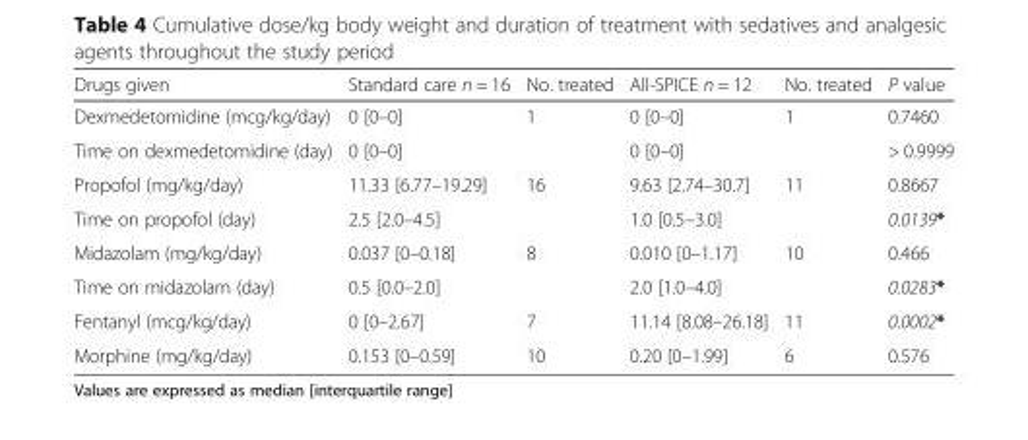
<table><thead><tr><td>Drugs given</td><td>Standard care n = 16</td><td>No. treated</td><td>All-SPICE n = 12</td><td>No. treated</td><td>P value</td></tr></thead><tbody><tr><td>Dexmedetomidine (mcg/kg/day)</td><td>0 [0–0]</td><td>1</td><td>0 [0–0]</td><td>1</td><td>0.7460</td></tr><tr><td>Time on dexmedetomidine (day)</td><td>0 [0–0]</td><td></td><td>0 [0–0]</td><td></td><td>&gt; 0.9999</td></tr><tr><td>Propofol (mg/kg/day)</td><td>11.33 [6.77–19.29]</td><td>16</td><td>9.63 [2.74–30.7]</td><td>11</td><td>0.8667</td></tr><tr><td>Time on propofol (day)</td><td>2.5 [2.0–4.5]</td><td></td><td>1.0 [0.5–3.0]</td><td></td><td>0.0139*</td></tr><tr><td>Midazolam (mg/kg/day)</td><td>0.037 [0–0.18]</td><td>8</td><td>0.010 [0–1.17]</td><td>10</td><td>0.466</td></tr><tr><td>Time on midazolam (day)</td><td>0.5 [0.0–2.0]</td><td></td><td>2.0 [1.0–4.0]</td><td></td><td>0.0283*</td></tr><tr><td>Fentanyl (mcg/kg/day)</td><td>0 [0–2.67]</td><td>7</td><td>11.14 [8.08–26.18]</td><td>11</td><td>0.0002*</td></tr><tr><td>Morphine (mg/kg/day)</td><td>0.153 [0–0.59]</td><td>10</td><td>0.20 [0–1.99]</td><td>6</td><td>0.576</td></tr></tbody></table>